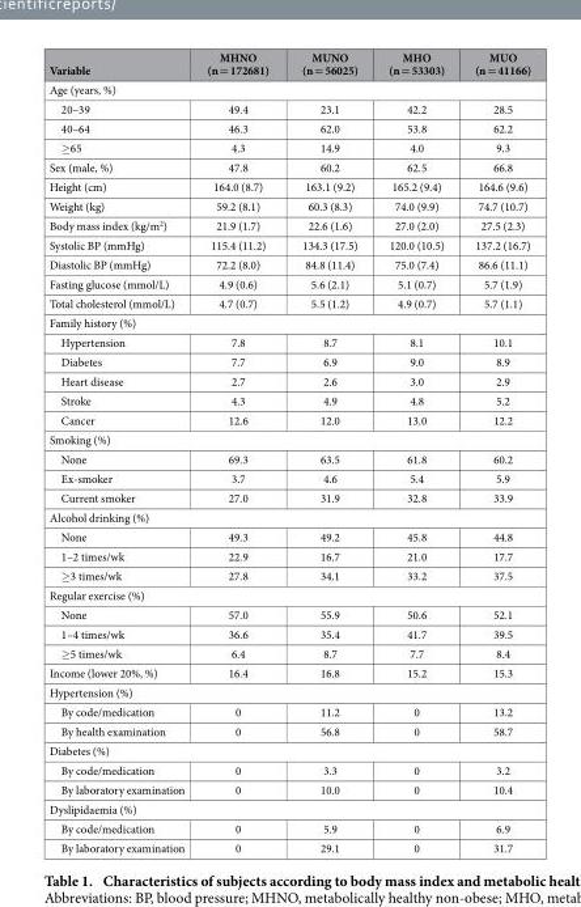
<table><thead><tr><td>Variable</td><td>MHNO (n = 172681)</td><td>MUNO (n = 56025)</td><td>MHO (n = 53303)</td><td>MUO (n = 41166)</td></tr></thead><tbody><tr><td colspan="5">Age (years, %)</td></tr><tr><td>20–39</td><td>49.4</td><td>23.1</td><td>42.2</td><td>28.5</td></tr><tr><td>40–64</td><td>46.3</td><td>62.0</td><td>53.8</td><td>62.2</td></tr><tr><td>≥65</td><td>4.3</td><td>14.9</td><td>4.0</td><td>9.3</td></tr><tr><td>Sex (male, %)</td><td>47.8</td><td>60.2</td><td>62.5</td><td>66.8</td></tr><tr><td>Height (cm)</td><td>164.0 (8.7)</td><td>163.1 (9.2)</td><td>165.2 (9.4)</td><td>164.6 (9.6)</td></tr><tr><td>Weight (kg)</td><td>59.2 (8.1)</td><td>60.3 (8.3)</td><td>74.0 (9.9)</td><td>74.7 (10.7)</td></tr><tr><td>Body mass index (kg/m<sup>2</sup>)</td><td>21.9 (1.7)</td><td>22.6 (1.6)</td><td>27.0 (2.0)</td><td>27.5 (2.3)</td></tr><tr><td>Systolic BP (mmHg)</td><td>115.4 (11.2)</td><td>134.3 (17.5)</td><td>120.0 (10.5)</td><td>137.2 (16.7)</td></tr><tr><td>Diastolic BP (mmHg)</td><td>72.2 (8.0)</td><td>84.8 (11.4)</td><td>75.0 (7.4)</td><td>86.6 (11.1)</td></tr><tr><td>Fasting glucose (mmol/L)</td><td>4.9 (0.6)</td><td>5.6 (2.1)</td><td>5.1 (0.7)</td><td>5.7 (1.9)</td></tr><tr><td>Total cholesterol (mmol/L)</td><td>4.7 (0.7)</td><td>5.5 (1.2)</td><td>4.9 (0.7)</td><td>5.7 (1.1)</td></tr><tr><td colspan="5">Family history (%)</td></tr><tr><td>Hypertension</td><td>7.8</td><td>8.7</td><td>8.1</td><td>10.1</td></tr><tr><td>Diabetes</td><td>7.7</td><td>6.9</td><td>9.0</td><td>8.9</td></tr><tr><td>Heart disease</td><td>2.7</td><td>2.6</td><td>3.0</td><td>2.9</td></tr><tr><td>Stroke</td><td>4.3</td><td>4.9</td><td>4.8</td><td>5.2</td></tr><tr><td>Cancer</td><td>12.6</td><td>12.0</td><td>13.0</td><td>12.2</td></tr><tr><td colspan="5">Smoking (%)</td></tr><tr><td>None</td><td>69.3</td><td>63.5</td><td>61.8</td><td>60.2</td></tr><tr><td>Ex-smoker</td><td>3.7</td><td>4.6</td><td>5.4</td><td>5.9</td></tr><tr><td>Current smoker</td><td>27.0</td><td>31.9</td><td>32.8</td><td>33.9</td></tr><tr><td colspan="5">Alcohol drinking (%)</td></tr><tr><td>None</td><td>49.3</td><td>49.2</td><td>45.8</td><td>44.8</td></tr><tr><td>1–2 times/wk</td><td>22.9</td><td>16.7</td><td>21.0</td><td>17.7</td></tr><tr><td>≥3 times/wk</td><td>27.8</td><td>34.1</td><td>33.2</td><td>37.5</td></tr><tr><td colspan="5">Regular exercise (%)</td></tr><tr><td>None</td><td>57.0</td><td>55.9</td><td>50.6</td><td>52.1</td></tr><tr><td>1–4 times/wk</td><td>36.6</td><td>35.4</td><td>41.7</td><td>39.5</td></tr><tr><td>≥5 times/wk</td><td>6.4</td><td>8.7</td><td>7.7</td><td>8.4</td></tr><tr><td>Income (lower 20%, %)</td><td>16.4</td><td>16.8</td><td>15.2</td><td>15.3</td></tr><tr><td colspan="5">Hypertension (%)</td></tr><tr><td>By code/medication</td><td>0</td><td>11.2</td><td>0</td><td>13.2</td></tr><tr><td>By health examination</td><td>0</td><td>56.8</td><td>0</td><td>58.7</td></tr><tr><td colspan="5">Diabetes (%)</td></tr><tr><td>By code/medication</td><td>0</td><td>3.3</td><td>0</td><td>3.2</td></tr><tr><td>By laboratory examination</td><td>0</td><td>10.0</td><td>0</td><td>10.4</td></tr><tr><td colspan="5">Dyslipidaemia (%)</td></tr><tr><td>By code/medication</td><td>0</td><td>5.9</td><td>0</td><td>6.9</td></tr><tr><td>By laboratory examination</td><td>0</td><td>29.1</td><td>0</td><td>31.7</td></tr></tbody></table>